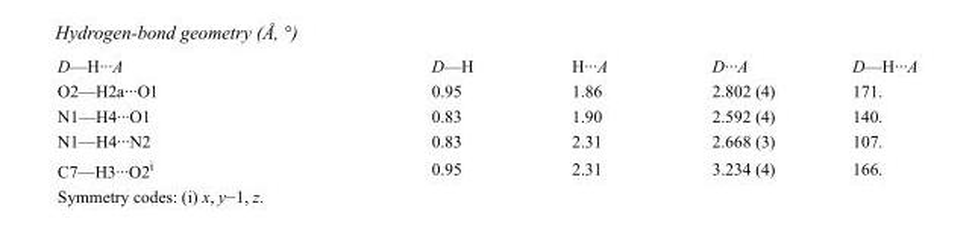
<table><tbody><tr><td>D—H···A</td><td>D—H</td><td>H···A</td><td>D···A</td><td>D—H···A</td></tr><tr><td>O2—H2a···O1</td><td>0.95</td><td>1.86</td><td>2.802 (4)</td><td>171.</td></tr><tr><td>N1—H4···O1</td><td>0.83</td><td>1.90</td><td>2.592 (4)</td><td>140.</td></tr><tr><td>N1—H4···N2</td><td>0.83</td><td>2.31</td><td>2.668 (3)</td><td>107.</td></tr><tr><td>C7—H3···O2<sup>i</sup></td><td>0.95</td><td>2.31</td><td>3.234 (4)</td><td>166.</td></tr></tbody></table>